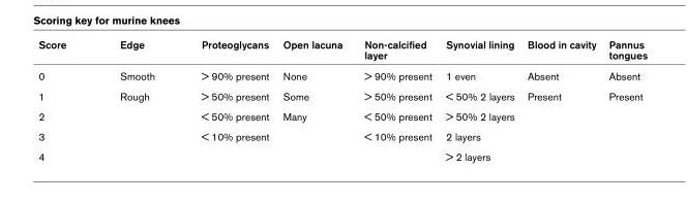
<table><thead><tr><td>Score</td><td>Edge</td><td>Proteoglycans</td><td>Open lacuna</td><td>Non-calcified layer</td><td>Synovial lining</td><td>Blood in cavity</td><td>Pannus tongues</td></tr></thead><tbody><tr><td>0</td><td>Smooth</td><td>&gt; 90% present</td><td>None</td><td>&gt; 90% present</td><td>1 even</td><td>Absent</td><td>Absent</td></tr><tr><td>1</td><td>Rough</td><td>&gt; 50% present</td><td>Some</td><td>&gt; 50% present</td><td>&lt; 50% 2 layers</td><td>Present</td><td>Present</td></tr><tr><td>2</td><td></td><td>&lt; 50% present</td><td>Many</td><td>&lt; 50% present</td><td>&gt; 50% 2 layers</td><td></td><td></td></tr><tr><td>3</td><td></td><td>&lt; 10% present</td><td></td><td>&lt; 10% present</td><td>2 layers</td><td></td><td></td></tr><tr><td>4</td><td></td><td></td><td></td><td></td><td>&gt; 2 layers</td><td></td><td></td></tr></tbody></table>